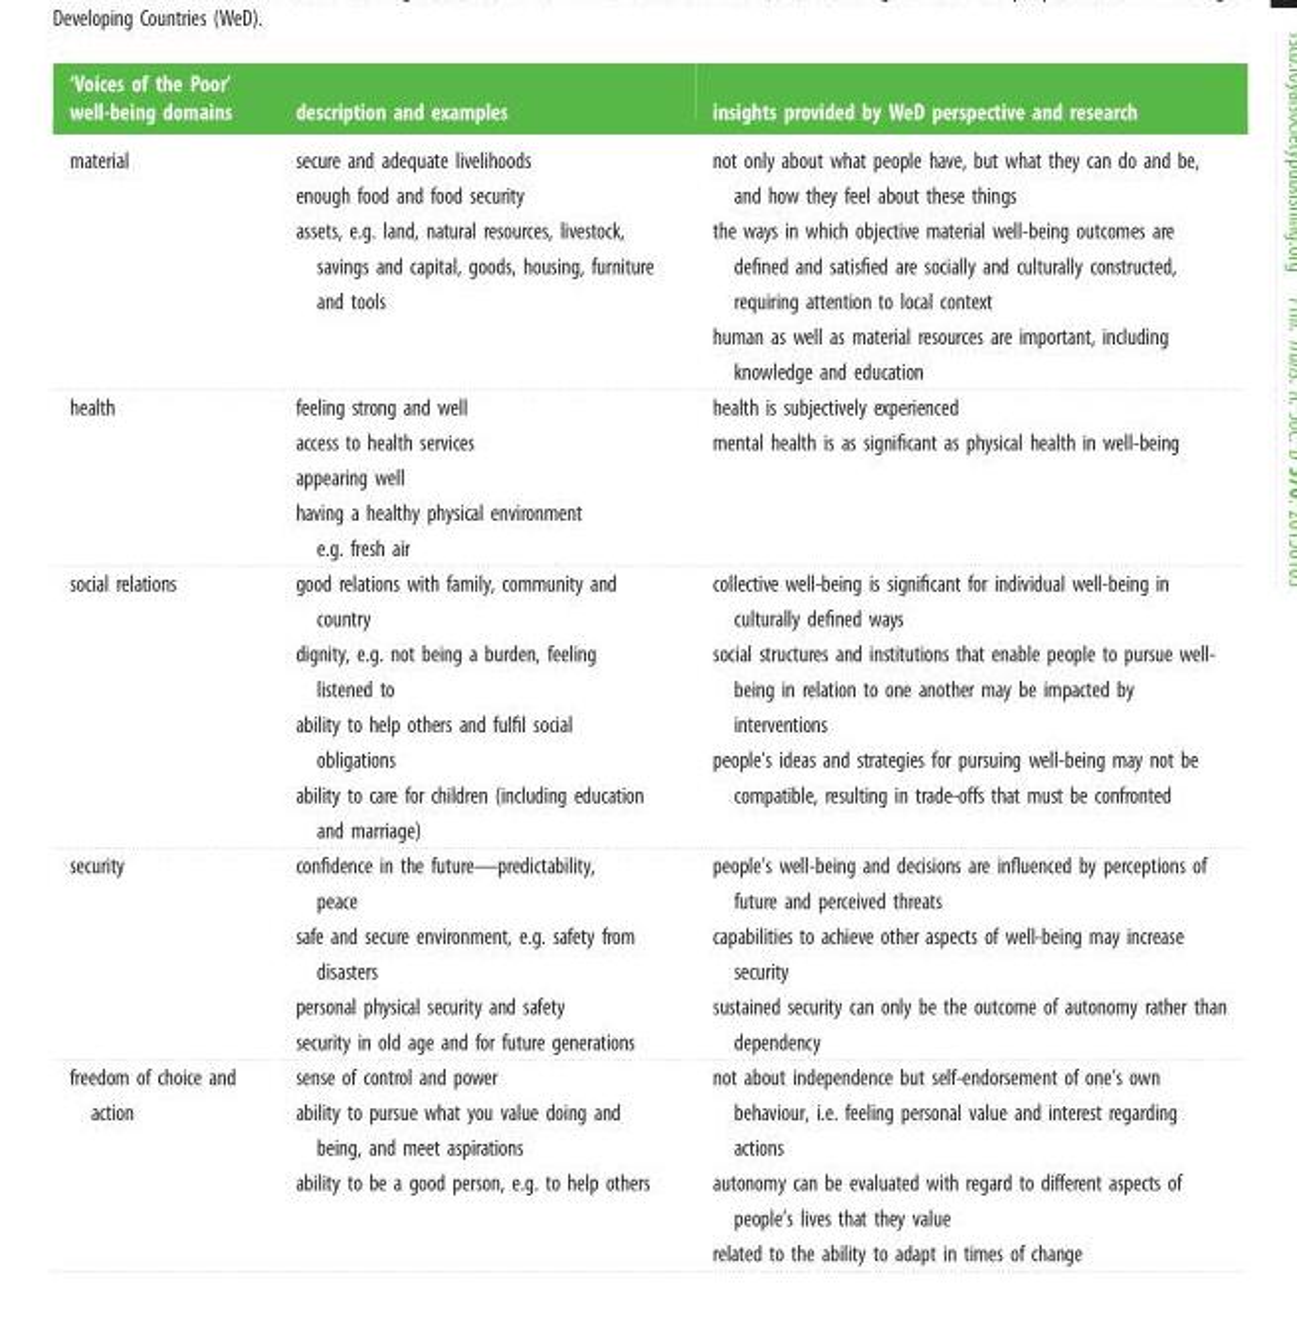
<table><thead><tr><td>‘Voices of the Poor’ well-being domains</td><td>description and examples</td><td>insights provided by WeD perspective and research</td></tr></thead><tbody><tr><td>material</td><td>secure and adequate livelihoods enough food and food security assets, e.g. land, natural resources, livestock, savings and capital, goods, housing, furniture and tools</td><td>not only about what people have, but what they can do and be, and how they feel about these things the ways in which objective material well-being outcomes are defined and satisfied are socially and culturally constructed, requiring attention to local context human as well as material resources are important, including knowledge and education</td></tr><tr><td>health</td><td>feeling strong and well access to health services appearing well having a healthy physical environment e.g. fresh air</td><td>health is subjectively experienced mental health is as significant as physical health in well-being</td></tr><tr><td>social relations</td><td>good relations with family, community and country dignity, e.g. not being a burden, feeling listened to ability to help others and fulfil social obligations ability to care for children (including education and marriage)</td><td>collective well-being is significant for individual well-being in culturally defined ways social structures and institutions that enable people to pursue well- being in relation to one another may be impacted by interventions people’s ideas and strategies for pursuing well-being may not be compatible, resulting in trade-offs that must be confronted</td></tr><tr><td>security</td><td>confidence in the future—predictability, peace safe and secure environment, e.g. safety from disasters personal physical security and safety security in old age and for future generations</td><td>people’s well-being and decisions are influenced by perceptions of future and perceived threats capabilities to achieve other aspects of well-being may increase security sustained security can only be the outcome of autonomy rather than dependency</td></tr><tr><td>freedom of choice and action</td><td>sense of control and power ability to pursue what you value doing and being, and meet aspirations ability to be a good person, e.g. to help others</td><td>not about independence but self-endorsement of one’s own behaviour, i.e. feeling personal value and interest regarding actions autonomy can be evaluated with regard to different aspects of people’s lives that they value related to the ability to adapt in times of change</td></tr></tbody></table>